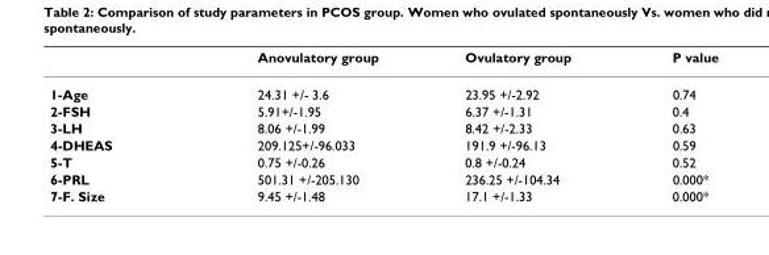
<table><thead><tr><td></td><td>Anovulatory group</td><td>Ovulatory group</td><td>P value</td></tr></thead><tbody><tr><td>1-Age</td><td>24.31 +/- 3.6</td><td>23.95 +/-2.92</td><td>0.74</td></tr><tr><td>2-FSH</td><td>5.91+/-1.95</td><td>6.37 +/-1.31</td><td>0.4</td></tr><tr><td>3-LH</td><td>8.06 +/-1.99</td><td>8.42 +/-2.33</td><td>0.63</td></tr><tr><td>4-DHEAS</td><td>209.125+/-96.033</td><td>191.9 +/-96.13</td><td>0.59</td></tr><tr><td>5-T</td><td>0.75 +/-0.26</td><td>0.8 +/-0.24</td><td>0.52</td></tr><tr><td>6-PRL</td><td>501.31 +/-205.130</td><td>236.25 +/-104.34</td><td>0.000*</td></tr><tr><td>7-F. Size</td><td>9.45 +/-1.48</td><td>17.1 +/-1.33</td><td>0.000*</td></tr></tbody></table>